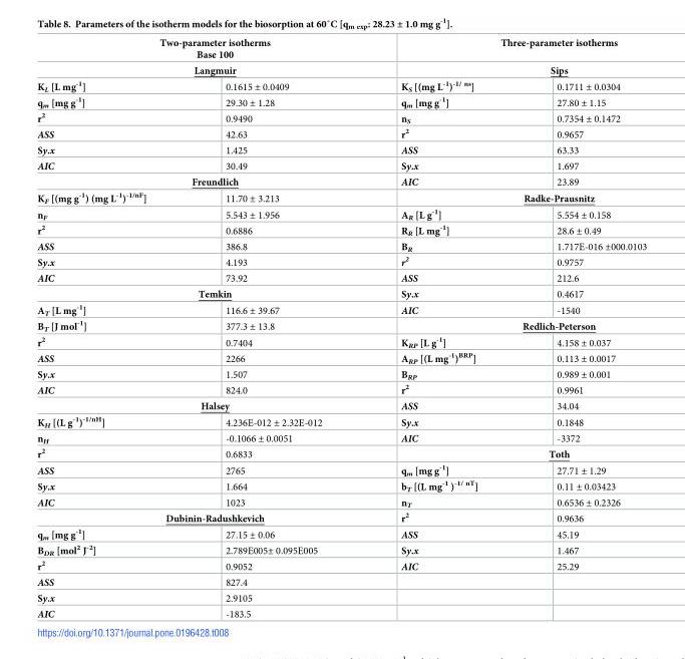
<table><thead><tr><td rowspan="2" colspan="2">Two-parameter isotherms Base 100 Langmuir</td><td rowspan="2" colspan="2">Three-parameter isotherms Sips</td></tr><tr></tr><tr><td>K<sub>L</sub> [L mg<sup>-1</sup>]</td><td>0.1615 ± 0.0409</td><td>K<sub>S</sub> [(mg L<sup>-1</sup>)<sup>-1/ ns</sup>]</td><td>0.1711 ± 0.0304</td></tr></thead><tbody><tr><td>q<sub>m</sub> [mg g<sup>-1</sup>]</td><td>29.30 ± 1.28</td><td>q<sub>m</sub> [mg g<sup>-1</sup>]</td><td>27.80 ± 1.15</td></tr><tr><td>r<sup>2</sup></td><td>0.9490</td><td>n<sub>S</sub></td><td>0.7354 ± 0.1472</td></tr><tr><td>ASS</td><td>42.63</td><td>r<sup>2</sup></td><td>0.9657</td></tr><tr><td>Sy.x</td><td>1.425</td><td>ASS</td><td>63.33</td></tr><tr><td>AIC</td><td>30.49</td><td>Sy.x</td><td>1.697</td></tr><tr><td colspan="2">Freundlich</td><td>AIC</td><td>23.89</td></tr><tr><td>K<sub>F</sub> [(mg g<sup>-1</sup>) (mg L<sup>-1</sup>)<sup>-1/nF</sup>]</td><td>11.70 ± 3.213</td><td colspan="2">Radke-Prausnitz</td></tr><tr><td>n<sub>F</sub></td><td>5.543 ± 1.956</td><td>A<sub>R</sub> [L g<sup>-1</sup>]</td><td>5.554 ± 0.158</td></tr><tr><td>r<sup>2</sup></td><td>0.6886</td><td>R<sub>R</sub> [L mg<sup>-1</sup>]</td><td>28.6 ± 0.49</td></tr><tr><td>ASS</td><td>386.8</td><td>B<sub>R</sub></td><td>1.717E-016 ±000.0103</td></tr><tr><td>Sy.x</td><td>4.193</td><td>r<sup>2</sup></td><td>0.9757</td></tr><tr><td>AIC</td><td>73.92</td><td>ASS</td><td>212.6</td></tr><tr><td colspan="2">Temkin</td><td>Sy.x</td><td>0.4617</td></tr><tr><td>A<sub>T</sub> [L mg<sup>-1</sup>]</td><td>116.6 ± 39.67</td><td>AIC</td><td>-1540</td></tr><tr><td>B<sub>T</sub> [J mol<sup>-1</sup>]</td><td>377.3 ± 13.8</td><td colspan="2">Redlich-Peterson</td></tr><tr><td>r<sup>2</sup></td><td>0.7404</td><td>K<sub>RP</sub> [L g<sup>-1</sup>]</td><td>4.158 ± 0.037</td></tr><tr><td>ASS</td><td>2266</td><td>A<sub>RP</sub> [(L mg<sup>-1</sup>)<sup>BRP</sup>]</td><td>0.113 ± 0.0017</td></tr><tr><td>Sy.x</td><td>1.507</td><td>B<sub>RP</sub></td><td>0.989 ± 0.001</td></tr><tr><td>AIC</td><td>824.0</td><td>r<sup>2</sup></td><td>0.9961</td></tr><tr><td colspan="2">Halsey</td><td>ASS</td><td>34.04</td></tr><tr><td>K<sub>H</sub> [(L g<sup>-1</sup>)<sup>-1/nH</sup>]</td><td>4.236E-012 ± 2.32E-012</td><td>Sy.x</td><td>0.1848</td></tr><tr><td>n<sub>H</sub></td><td>-0.1066 ± 0.0051</td><td>AIC</td><td>-3372</td></tr><tr><td>r<sup>2</sup></td><td>0.6833</td><td colspan="2">Toth</td></tr><tr><td>ASS</td><td>2765</td><td>q<sub>m</sub> [mg g<sup>-1</sup>]</td><td>27.71 ± 1.29</td></tr><tr><td>Sy.x</td><td>1.664</td><td>b<sub>T</sub> [(L mg<sup>-1</sup> )<sup>-1/ nT</sup>]</td><td>0.11 ± 0.03423</td></tr><tr><td>AIC</td><td>1023</td><td>n<sub>T</sub></td><td>0.6536 ± 0.2326</td></tr><tr><td colspan="2">Dubinin-Radushkevich</td><td>r<sup>2</sup></td><td>0.9636</td></tr><tr><td>q<sub>m</sub> [mg g<sup>-1</sup>]</td><td>27.15 ± 0.06</td><td>ASS</td><td>45.19</td></tr><tr><td>B<sub>DR</sub> [mol<sup>2</sup> J<sup>-2</sup>]</td><td>2.789E005± 0.095E005</td><td>Sy.x</td><td>1.467</td></tr><tr><td>r<sup>2</sup></td><td>0.9052</td><td>AIC</td><td>25.29</td></tr><tr><td>ASS</td><td>827.4</td><td></td><td></td></tr><tr><td>Sy.x</td><td>2.9105</td><td></td><td></td></tr><tr><td>AIC</td><td>-183.5</td><td></td><td></td></tr></tbody></table>